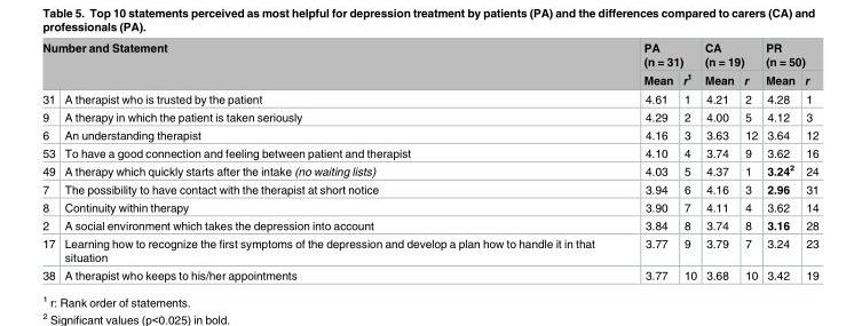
<table><thead><tr><td rowspan="2" colspan="2">Number and Statement</td><td colspan="2">PA (n = 31)</td><td colspan="2">CA (n = 19)</td><td colspan="2">PR (n = 50)</td></tr><tr><td rowspan="2">Mean 4.61</td><td rowspan="2">r1 1</td><td rowspan="2">Mean 4.21</td><td rowspan="2">r 2</td><td rowspan="2">Mean 4.28</td><td rowspan="2">r <sup>1</sup></td></tr><tr><td>31</td><td>A therapist who is trusted by the patient</td></tr></thead><tbody><tr><td>9</td><td>A therapy in which the patient is taken seriously</td><td>4.29</td><td>2</td><td>4.00</td><td>5</td><td>4.12</td><td>3</td></tr><tr><td>6</td><td>An understanding therapist</td><td>4.16</td><td>3</td><td>3.63</td><td>12</td><td>3.64</td><td>12</td></tr><tr><td>53</td><td>To have a good connection and feeling between patient and therapist</td><td>4.10</td><td>4</td><td>3.74</td><td>9</td><td>3.62</td><td>16</td></tr><tr><td>49</td><td>A therapy which quickly starts after the intake (no waiting lists)</td><td>4.03</td><td>5</td><td>4.37</td><td>1</td><td>3.24<sup>2</sup></td><td>24</td></tr><tr><td>7</td><td>The possibility to have contact with the therapist at short notice</td><td>3.94</td><td>6</td><td>4.16</td><td>3</td><td>2.96</td><td>31</td></tr><tr><td>8</td><td>Continuity within therapy</td><td>3.90</td><td>7</td><td>4.11</td><td>4</td><td>3.62</td><td>14</td></tr><tr><td>2</td><td>A social environment which takes the depression into account</td><td>3.84</td><td>8</td><td>3.74</td><td>8</td><td>3.16</td><td>28</td></tr><tr><td>17</td><td>Learning how to recognize the first symptoms of the depression and develop a plan how to handle it in that situation</td><td>3.77</td><td>9</td><td>3.79</td><td>7</td><td>3.24</td><td>23</td></tr><tr><td>38</td><td>A therapist who keeps to his/her appointments</td><td>3.77</td><td>10</td><td>3.68</td><td>10</td><td>3.42</td><td>19</td></tr></tbody></table>